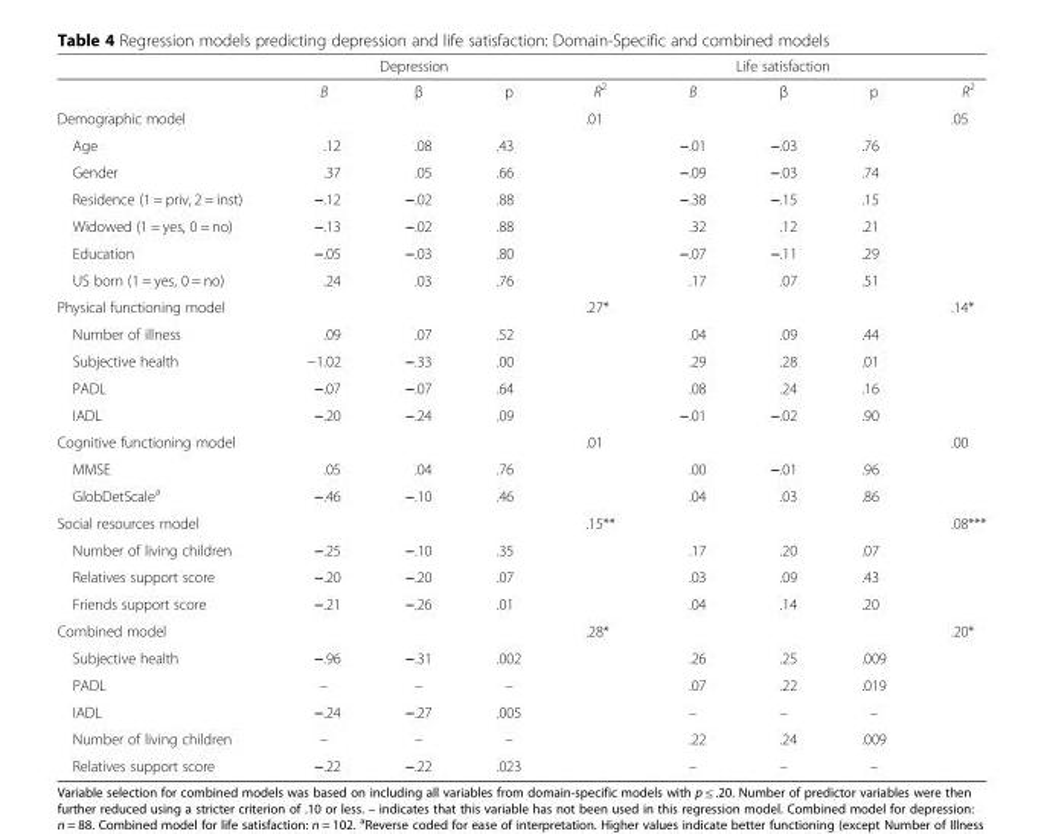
<table><thead><tr><td rowspan="2"></td><td colspan="3">Depression</td><td rowspan="2">R<sup>2</sup></td><td colspan="3">Life satisfaction</td><td rowspan="2">R<sup>2</sup></td></tr><tr><td>B</td><td>β</td><td>p</td><td>B</td><td>β</td><td>p</td></tr></thead><tbody><tr><td>Demographic model</td><td></td><td></td><td></td><td>.01</td><td></td><td></td><td></td><td>.05</td></tr><tr><td>Age</td><td>.12</td><td>.08</td><td>.43</td><td></td><td>−.01</td><td>−.03</td><td>.76</td><td></td></tr><tr><td>Gender</td><td>.37</td><td>.05</td><td>.66</td><td></td><td>−.09</td><td>−.03</td><td>.74</td><td></td></tr><tr><td>Residence (1 = priv, 2 = inst)</td><td>−.12</td><td>−.02</td><td>.88</td><td></td><td>−.38</td><td>−.15</td><td>.15</td><td></td></tr><tr><td>Widowed (1 = yes, 0 = no)</td><td>−.13</td><td>−.02</td><td>.88</td><td></td><td>.32</td><td>.12</td><td>.21</td><td></td></tr><tr><td>Education</td><td>−.05</td><td>−.03</td><td>.80</td><td></td><td>−.07</td><td>−.11</td><td>.29</td><td></td></tr><tr><td>US born (1 = yes, 0 = no)</td><td>.24</td><td>.03</td><td>.76</td><td></td><td>.17</td><td>.07</td><td>.51</td><td></td></tr><tr><td>Physical functioning model</td><td></td><td></td><td></td><td>.27*</td><td></td><td></td><td></td><td>.14*</td></tr><tr><td>Number of illness</td><td>.09</td><td>.07</td><td>.52</td><td></td><td>.04</td><td>.09</td><td>.44</td><td></td></tr><tr><td>Subjective health</td><td>−1.02</td><td>−.33</td><td>.00</td><td></td><td>.29</td><td>.28</td><td>.01</td><td></td></tr><tr><td>PADL</td><td>−.07</td><td>−.07</td><td>.64</td><td></td><td>.08</td><td>.24</td><td>.16</td><td></td></tr><tr><td>IADL</td><td>−.20</td><td>−.24</td><td>.09</td><td></td><td>−.01</td><td>−.02</td><td>.90</td><td></td></tr><tr><td>Cognitive functioning model</td><td></td><td></td><td></td><td>.01</td><td></td><td></td><td></td><td>.00</td></tr><tr><td>MMSE</td><td>.05</td><td>.04</td><td>.76</td><td></td><td>.00</td><td>−.01</td><td>.96</td><td></td></tr><tr><td>GlobDetScale<sup>a</sup></td><td>−.46</td><td>−.10</td><td>.46</td><td></td><td>.04</td><td>.03</td><td>.86</td><td></td></tr><tr><td>Social resources model</td><td></td><td></td><td></td><td>.15**</td><td></td><td></td><td></td><td>.08***</td></tr><tr><td>Number of living children</td><td>−.25</td><td>−.10</td><td>.35</td><td></td><td>.17</td><td>.20</td><td>.07</td><td></td></tr><tr><td>Relatives support score</td><td>−.20</td><td>−.20</td><td>.07</td><td></td><td>.03</td><td>.09</td><td>.43</td><td></td></tr><tr><td>Friends support score</td><td>−.21</td><td>−.26</td><td>.01</td><td></td><td>.04</td><td>.14</td><td>.20</td><td></td></tr><tr><td>Combined model</td><td></td><td></td><td></td><td>.28*</td><td></td><td></td><td></td><td>.20*</td></tr><tr><td>Subjective health</td><td>−.96</td><td>−.31</td><td>.002</td><td></td><td>.26</td><td>.25</td><td>.009</td><td></td></tr><tr><td>PADL</td><td>–</td><td>–</td><td>–</td><td></td><td>.07</td><td>.22</td><td>.019</td><td></td></tr><tr><td>IADL</td><td>−.24</td><td>−.27</td><td>.005</td><td></td><td>–</td><td>–</td><td>–</td><td></td></tr><tr><td>Number of living children</td><td>–</td><td>–</td><td>–</td><td></td><td>.22</td><td>.24</td><td>.009</td><td></td></tr><tr><td>Relatives support score</td><td>−.22</td><td>−.22</td><td>.023</td><td></td><td>–</td><td>–</td><td>–</td><td></td></tr></tbody></table>